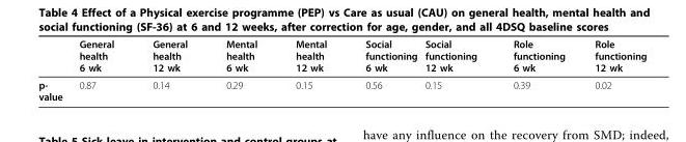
<table><thead><tr><td></td><td>General health 6 wk</td><td>General health 12 wk</td><td>Mental health 6 wk</td><td>Mental health 12 wk</td><td>Social functioning 6 wk</td><td>Social functioning 12 wk</td><td>Role functioning 6 wk</td><td>Role functioning 12 wk</td></tr></thead><tbody><tr><td>p- value</td><td>0.87</td><td>0.14</td><td>0.29</td><td>0.15</td><td>0.56</td><td>0.15</td><td>0.39</td><td>0.02</td></tr></tbody></table>